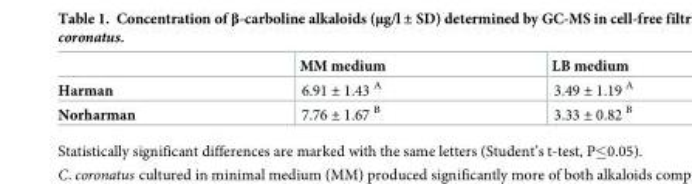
<table><thead><tr><td></td><td>MM medium</td><td>LB medium</td></tr></thead><tbody><tr><td>Harman</td><td>6.91 ± 1.43 <sup>A</sup></td><td>3.49 ± 1.19 <sup>A</sup></td></tr><tr><td>Norharman</td><td>7.76 ± 1.67 <sup>B</sup></td><td>3.33 ± 0.82 <sup>B</sup></td></tr></tbody></table>